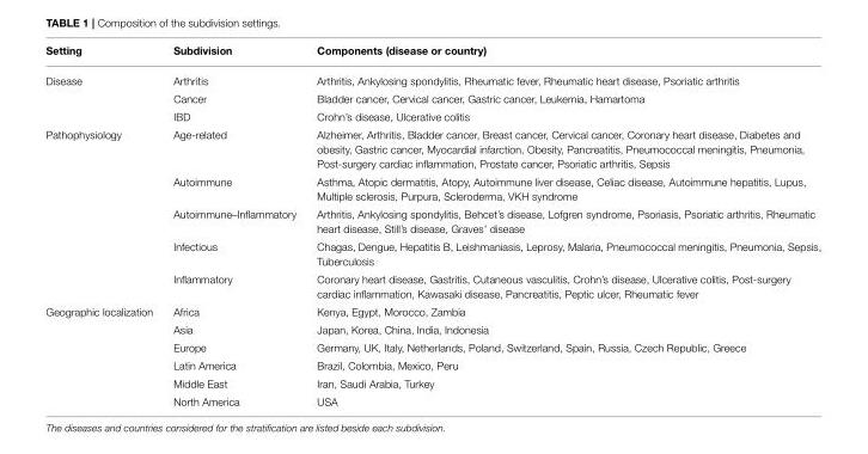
<table><thead><tr><td>Setting</td><td>Subdivision</td><td>Components (disease or country)</td></tr></thead><tbody><tr><td rowspan="3">Disease</td><td>Arthritis</td><td>Arthritis, Ankylosing spondylitis, Rheumatic fever, Rheumatic heart disease, Psoriatic arthritis</td></tr><tr><td>Cancer</td><td>Bladder cancer, Cervical cancer, Gastric cancer, Leukemia, Hamartoma</td></tr><tr><td>IBD</td><td>Crohn’s disease, Ulcerative colitis</td></tr><tr><td rowspan="5">Pathophysiology</td><td>Age-related</td><td>Alzheimer, Arthritis, Bladder cancer, Breast cancer, Cervical cancer, Coronary heart disease, Diabetes and obesity, Gastric cancer, Myocardial infarction, Obesity, Pancreatitis, Pneumococcal meningitis, Pneumonia, Post-surgery cardiac inflammation, Prostate cancer, Psoriatic arthritis, Sepsis</td></tr><tr><td>Autoimmune</td><td>Asthma, Atopic dermatitis, Atopy, Autoimmune liver disease, Celiac disease, Autoimmune hepatitis, Lupus, Multiple sclerosis, Purpura, Scleroderma, VKH syndrome</td></tr><tr><td>Autoimmune–Inflammatory</td><td>Arthritis, Ankylosing spondylitis, Behcet’s disease, Lofgren syndrome, Psoriasis, Psoriatic arthritis, Rheumatic heart disease, Still’s disease, Graves’ disease</td></tr><tr><td>Infectious</td><td>Chagas, Dengue, Hepatitis B, Leishmaniasis, Leprosy, Malaria, Pneumococcal meningitis, Pneumonia, Sepsis, Tuberculosis</td></tr><tr><td>Inflammatory</td><td>Coronary heart disease, Gastritis, Cutaneous vasculitis, Crohn’s disease, Ulcerative colitis, Post-surgery cardiac inflammation, Kawasaki disease, Pancreatitis, Peptic ulcer, Rheumatic fever</td></tr><tr><td rowspan="6">Geographic localization</td><td>Africa</td><td>Kenya, Egypt, Morocco, Zambia</td></tr><tr><td>Asia</td><td>Japan, Korea, China, India, Indonesia</td></tr><tr><td>Europe</td><td>Germany, UK, Italy, Netherlands, Poland, Switzerland, Spain, Russia, Czech Republic, Greece</td></tr><tr><td>Latin America</td><td>Brazil, Colombia, Mexico, Peru</td></tr><tr><td>Middle East</td><td>Iran, Saudi Arabia, Turkey</td></tr><tr><td>North America</td><td>USA</td></tr></tbody></table>